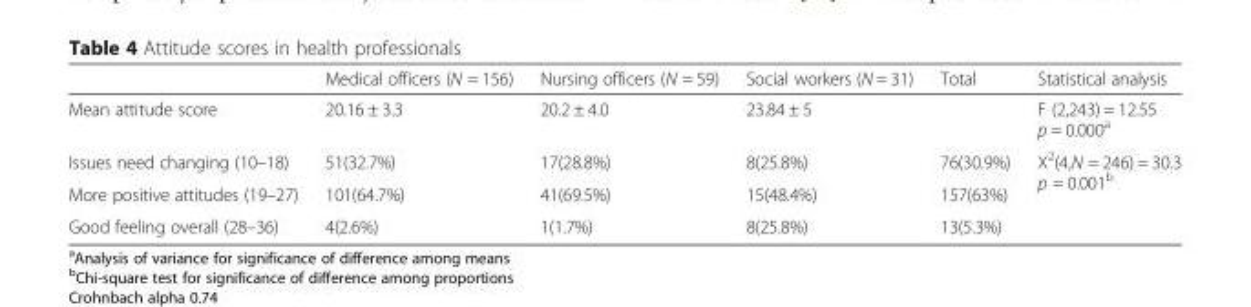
<table><thead><tr><td></td><td>Medical officers (N = 156)</td><td>Nursing officers (N = 59)</td><td>Social workers (N = 31)</td><td>Total</td><td>Statistical analysis</td></tr></thead><tbody><tr><td>Mean attitude score</td><td>20.16 ± 3.3</td><td>20.2 ± 4.0</td><td>23.84 ± 5</td><td></td><td>F (2,243) = 12.55 p = 0.000<sup>a</sup></td></tr><tr><td>Issues need changing (10–18)</td><td>51(32.7%)</td><td>17(28.8%)</td><td>8(25.8%)</td><td>76(30.9%)</td><td rowspan="3">X<sup>2</sup>(4,N = 246) = 30.3 p = 0.001<sup>b</sup></td></tr><tr><td>More positive attitudes (19–27)</td><td>101(64.7%)</td><td>41(69.5%)</td><td>15(48.4%)</td><td>157(63%)</td></tr><tr><td>Good feeling overall (28–36)</td><td>4(2.6%)</td><td>1(1.7%)</td><td>8(25.8%)</td><td>13(5.3%)</td></tr></tbody></table>